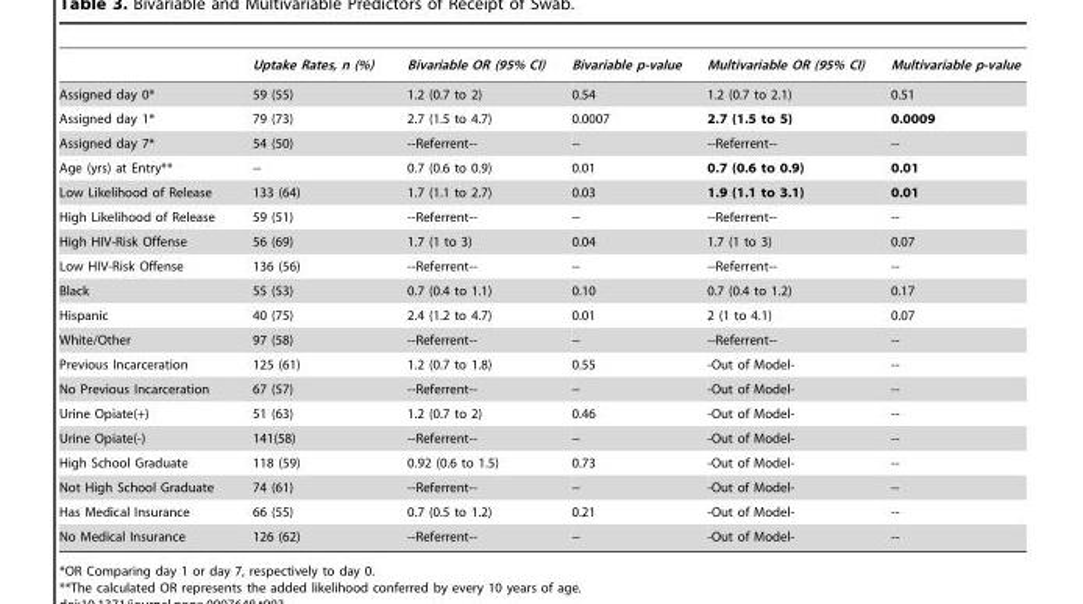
<table><thead><tr><td></td><td>Uptake Rates, n (%)</td><td>Bivariable OR (95% CI)</td><td>Bivariable p-value</td><td>Multivariable OR (95% CI)</td><td>Multivariable p-value</td></tr></thead><tbody><tr><td>Assigned day 0*</td><td>59 (55)</td><td>1.2 (0.7 to 2)</td><td>0.54</td><td>1.2 (0.7 to 2.1)</td><td>0.51</td></tr><tr><td>Assigned day 1*</td><td>79 (73)</td><td>2.7 (1.5 to 4.7)</td><td>0.0007</td><td>2.7 (1.5 to 5)</td><td>0.0009</td></tr><tr><td>Assigned day 7*</td><td>54 (50)</td><td>--Referrent--</td><td>--</td><td>--Referrent--</td><td>--</td></tr><tr><td>Age (yrs) at Entry**</td><td>--</td><td>0.7 (0.6 to 0.9)</td><td>0.01</td><td>0.7 (0.6 to 0.9)</td><td>0.01</td></tr><tr><td>Low Likelihood of Release</td><td>133 (64)</td><td>1.7 (1.1 to 2.7)</td><td>0.03</td><td>1.9 (1.1 to 3.1)</td><td>0.01</td></tr><tr><td>High Likelihood of Release</td><td>59 (51)</td><td>--Referrent--</td><td>--</td><td>--Referrent--</td><td>--</td></tr><tr><td>High HIV-Risk Offense</td><td>56 (69)</td><td>1.7 (1 to 3)</td><td>0.04</td><td>1.7 (1 to 3)</td><td>0.07</td></tr><tr><td>Low HIV-Risk Offense</td><td>136 (56)</td><td>--Referrent--</td><td>--</td><td>--Referrent--</td><td>--</td></tr><tr><td>Black</td><td>55 (53)</td><td>0.7 (0.4 to 1.1)</td><td>0.10</td><td>0.7 (0.4 to 1.2)</td><td>0.17</td></tr><tr><td>Hispanic</td><td>40 (75)</td><td>2.4 (1.2 to 4.7)</td><td>0.01</td><td>2 (1 to 4.1)</td><td>0.07</td></tr><tr><td>White/Other</td><td>97 (58)</td><td>--Referrent--</td><td>--</td><td>--Referrent--</td><td>--</td></tr><tr><td>Previous Incarceration</td><td>125 (61)</td><td>1.2 (0.7 to 1.8)</td><td>0.55</td><td>-Out of Model-</td><td>--</td></tr><tr><td>No Previous Incarceration</td><td>67 (57)</td><td>--Referrent--</td><td>--</td><td>-Out of Model-</td><td>--</td></tr><tr><td>Urine Opiate(+)</td><td>51 (63)</td><td>1.2 (0.7 to 2)</td><td>0.46</td><td>-Out of Model-</td><td>--</td></tr><tr><td>Urine Opiate(-)</td><td>141(58)</td><td>--Referrent--</td><td>--</td><td>-Out of Model-</td><td>--</td></tr><tr><td>High School Graduate</td><td>118 (59)</td><td>0.92 (0.6 to 1.5)</td><td>0.73</td><td>-Out of Model-</td><td>--</td></tr><tr><td>Not High School Graduate</td><td>74 (61)</td><td>--Referrent--</td><td>--</td><td>-Out of Model-</td><td>--</td></tr><tr><td>Has Medical Insurance</td><td>66 (55)</td><td>0.7 (0.5 to 1.2)</td><td>0.21</td><td>-Out of Model-</td><td>--</td></tr><tr><td>No Medical Insurance</td><td>126 (62)</td><td>--Referrent--</td><td>--</td><td>-Out of Model-</td><td>--</td></tr></tbody></table>